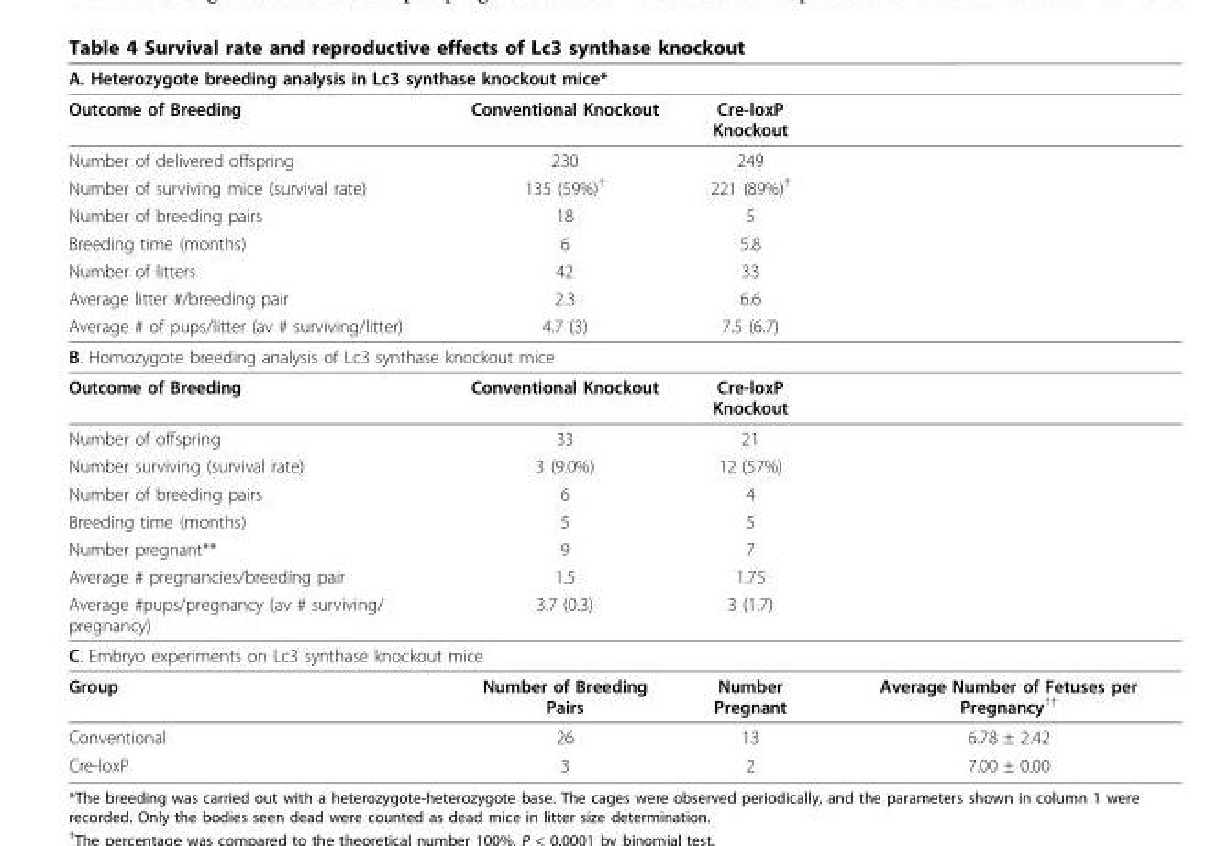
<table><thead><tr><td colspan="4">A. Heterozygote breeding analysis in Lc3 synthase knockout mice*</td></tr><tr><td>Outcome of Breeding</td><td>Conventional Knockout</td><td>Cre-loxP Knockout</td><td></td></tr></thead><tbody><tr><td>Number of delivered offspring</td><td>230</td><td>249</td><td></td></tr><tr><td>Number of surviving mice (survival rate)</td><td>135 (59%)<sup>†</sup></td><td>221 (89%)<sup>†</sup></td><td></td></tr><tr><td>Number of breeding pairs</td><td>18</td><td>5</td><td></td></tr><tr><td>Breeding time (months)</td><td>6</td><td>5.8</td><td></td></tr><tr><td>Number of litters</td><td>42</td><td>33</td><td></td></tr><tr><td>Average litter #/breeding pair</td><td>2.3</td><td>6.6</td><td></td></tr><tr><td>Average # of pups/litter (av # surviving/litter)</td><td>4.7 (3)</td><td>7.5 (6.7)</td><td></td></tr><tr><td colspan="4">B. Homozygote breeding analysis of Lc3 synthase knockout mice</td></tr><tr><td>Outcome of Breeding</td><td>Conventional Knockout</td><td>Cre-loxP Knockout</td><td></td></tr><tr><td>Number of offspring</td><td>33</td><td>21</td><td></td></tr><tr><td>Number surviving (survival rate)</td><td>3 (9.0%)</td><td>12 (57%)</td><td></td></tr><tr><td>Number of breeding pairs</td><td>6</td><td>4</td><td></td></tr><tr><td>Breeding time (months)</td><td>5</td><td>5</td><td></td></tr><tr><td>Number pregnant**</td><td>9</td><td>7</td><td></td></tr><tr><td>Average # pregnancies/breeding pair</td><td>1.5</td><td>1.75</td><td></td></tr><tr><td>Average #pups/pregnancy (av # surviving/ pregnancy)</td><td>3.7 (0.3)</td><td>3 (1.7)</td><td></td></tr><tr><td colspan="4">C. Embryo experiments on Lc3 synthase knockout mice</td></tr><tr><td>Group</td><td>Number of Breeding Pairs</td><td>Number Pregnant</td><td>Average Number of Fetuses per Pregnancy<sup>††</sup></td></tr><tr><td>Conventional</td><td>26</td><td>13</td><td>6.78 ± 2.42</td></tr><tr><td>Cre-loxP</td><td>3</td><td>2</td><td>7.00 ± 0.00</td></tr></tbody></table>